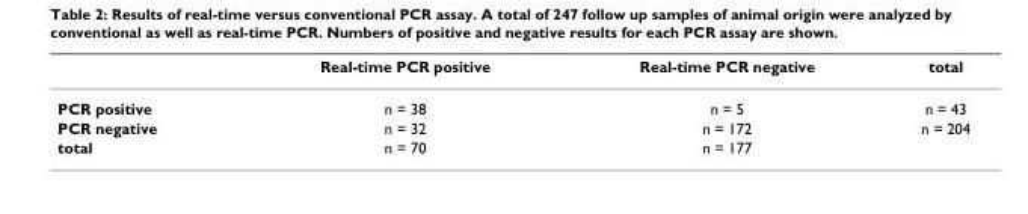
<table><thead><tr><td></td><td>Real-time PCR positive</td><td>Real-time PCR negative</td><td>total</td></tr></thead><tbody><tr><td>PCR positive</td><td>n = 38</td><td>n = 5</td><td>n = 43</td></tr><tr><td>PCR negative</td><td>n = 32</td><td>n = 172</td><td>n = 204</td></tr><tr><td>total</td><td>n = 70</td><td>n = 177</td><td></td></tr></tbody></table>